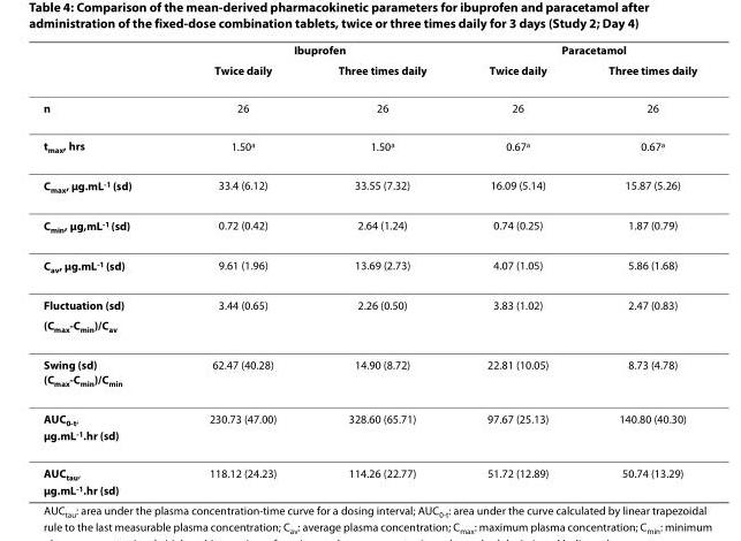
<table><thead><tr><td rowspan="2"></td><td colspan="2">Ibuprofen</td><td colspan="2">Paracetamol</td></tr><tr><td>Twice daily</td><td>Three times daily</td><td>Twice daily</td><td>Three times daily</td></tr></thead><tbody><tr><td>n</td><td>26</td><td>26</td><td>26</td><td>26</td></tr><tr><td>tmax, hrs</td><td>1.50a</td><td>1.50a</td><td>0.67a</td><td>0.67a</td></tr><tr><td>Cmax, μg.mL-1 (sd)</td><td>33.4 (6.12)</td><td>33.55 (7.32)</td><td>16.09 (5.14)</td><td>15.87 (5.26)</td></tr><tr><td>Cmin, μg,mL-1 (sd)</td><td>0.72 (0.42)</td><td>2.64 (1.24)</td><td>0.74 (0.25)</td><td>1.87 (0.79)</td></tr><tr><td>Cav, μg.mL-1 (sd)</td><td>9.61 (1.96)</td><td>13.69 (2.73)</td><td>4.07 (1.05)</td><td>5.86 (1.68)</td></tr><tr><td>Fluctuation (sd)</td><td>3.44 (0.65)</td><td>2.26 (0.50)</td><td>3.83 (1.02)</td><td>2.47 (0.83)</td></tr><tr><td colspan="5">(Cmax-Cmin)/Cav</td></tr><tr><td>Swing (sd) (Cmax-Cmin)/Cmin</td><td>62.47 (40.28)</td><td>14.90 (8.72)</td><td>22.81 (10.05)</td><td>8.73 (4.78)</td></tr><tr><td>AUC0-t, μg.mL-1.hr (sd)</td><td>230.73 (47.00)</td><td>328.60 (65.71)</td><td>97.67 (25.13)</td><td>140.80 (40.30)</td></tr><tr><td>AUCtau, μg.mL-1.hr (sd)</td><td>118.12 (24.23)</td><td>114.26 (22.77)</td><td>51.72 (12.89)</td><td>50.74 (13.29)</td></tr></tbody></table>